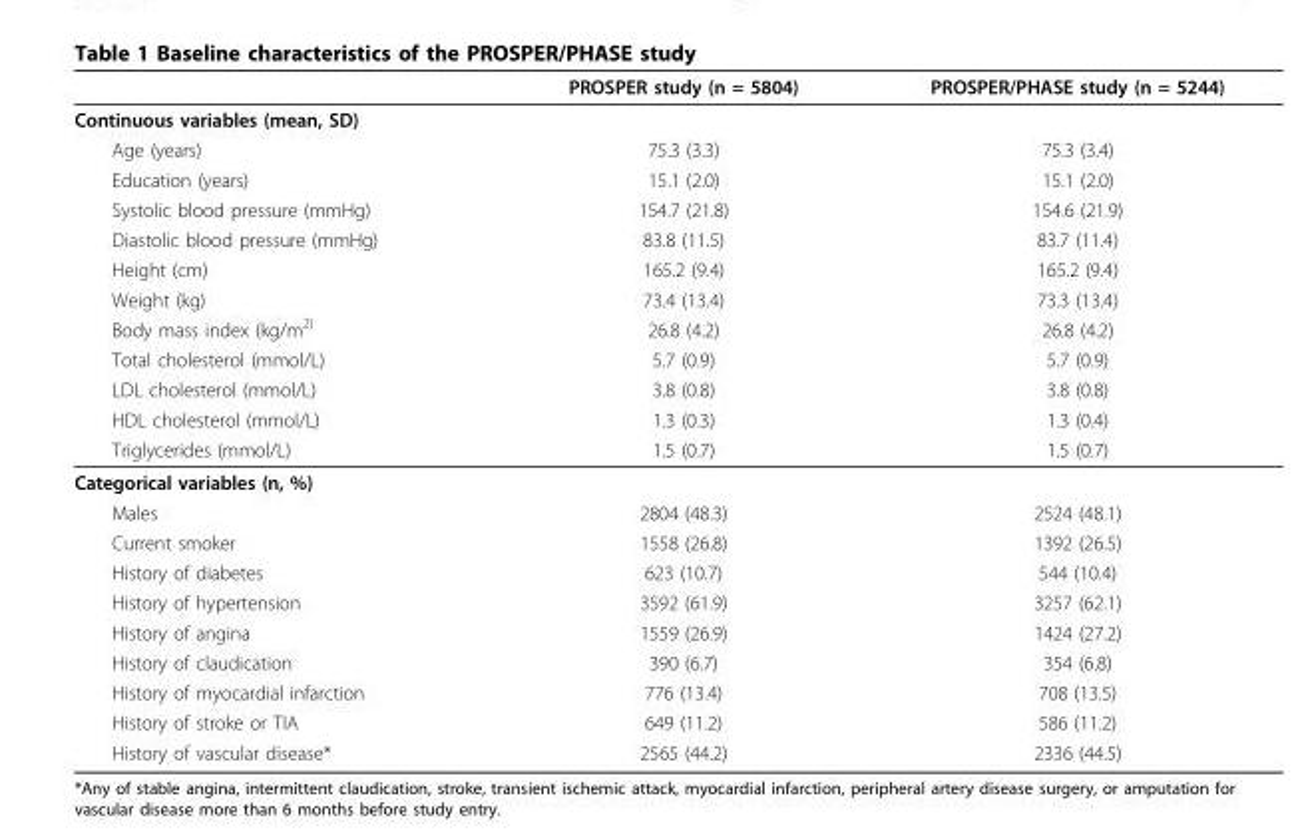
<table><thead><tr><td></td><td>PROSPER study (n = 5804)</td><td>PROSPER/PHASE study (n = 5244)</td></tr></thead><tbody><tr><td colspan="3">Continuous variables (mean, SD)</td></tr><tr><td>Age (years)</td><td>75.3 (3.3)</td><td>75.3 (3.4)</td></tr><tr><td>Education (years)</td><td>15.1 (2.0)</td><td>15.1 (2.0)</td></tr><tr><td>Systolic blood pressure (mmHg)</td><td>154.7 (21.8)</td><td>154.6 (21.9)</td></tr><tr><td>Diastolic blood pressure (mmHg)</td><td>83.8 (11.5)</td><td>83.7 (11.4)</td></tr><tr><td>Height (cm)</td><td>165.2 (9.4)</td><td>165.2 (9.4)</td></tr><tr><td>Weight (kg)</td><td>73.4 (13.4)</td><td>73.3 (13.4)</td></tr><tr><td>Body mass index (kg/m<sup>2)</sup></td><td>26.8 (4.2)</td><td>26.8 (4.2)</td></tr><tr><td>Total cholesterol (mmol/L)</td><td>5.7 (0.9)</td><td>5.7 (0.9)</td></tr><tr><td>LDL cholesterol (mmol/L)</td><td>3.8 (0.8)</td><td>3.8 (0.8)</td></tr><tr><td>HDL cholesterol (mmol/L)</td><td>1.3 (0.3)</td><td>1.3 (0.4)</td></tr><tr><td>Triglycerides (mmol/L)</td><td>1.5 (0.7)</td><td>1.5 (0.7)</td></tr><tr><td colspan="3">Categorical variables (n, %)</td></tr><tr><td>Males</td><td>2804 (48.3)</td><td>2524 (48.1)</td></tr><tr><td>Current smoker</td><td>1558 (26.8)</td><td>1392 (26.5)</td></tr><tr><td>History of diabetes</td><td>623 (10.7)</td><td>544 (10.4)</td></tr><tr><td>History of hypertension</td><td>3592 (61.9)</td><td>3257 (62.1)</td></tr><tr><td>History of angina</td><td>1559 (26.9)</td><td>1424 (27.2)</td></tr><tr><td>History of claudication</td><td>390 (6.7)</td><td>354 (6.8)</td></tr><tr><td>History of myocardial infarction</td><td>776 (13.4)</td><td>708 (13.5)</td></tr><tr><td>History of stroke or TIA</td><td>649 (11.2)</td><td>586 (11.2)</td></tr><tr><td>History of vascular disease*</td><td>2565 (44.2)</td><td>2336 (44.5)</td></tr></tbody></table>